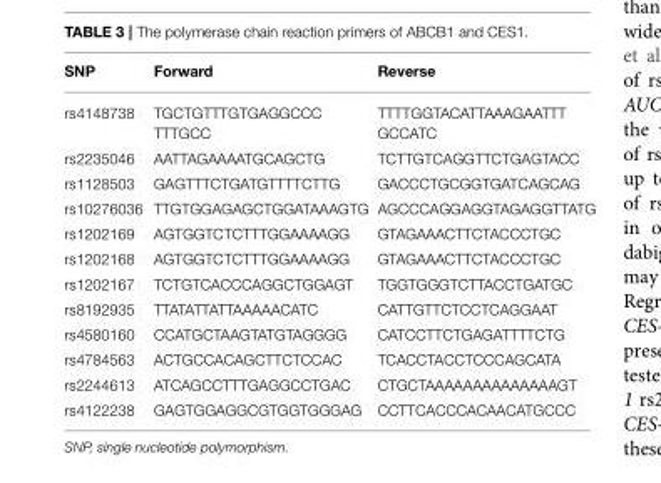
<table><thead><tr><td>SNP</td><td>Forward</td><td>Reverse</td></tr></thead><tbody><tr><td>rs4148738</td><td>TGCTGTTTGTGAGGCCC TTTGCC</td><td>TTTTGGTACATTAAAGAATTT GCCATC</td></tr><tr><td>rs2235046</td><td>AATTAGAAAATGCAGCTG</td><td>TCTTGTCAGGTTCTGAGTACC</td></tr><tr><td>rs1128503</td><td>GAGTTTCTGATGTTTTCTTG</td><td>GACCCTGCGGTGATCAGCAG</td></tr><tr><td>rs10276036</td><td>TTGTGGAGAGCTGGATAAAGTG</td><td>AGCCCAGGAGGTAGAGGTTATG</td></tr><tr><td>rs1202169</td><td>AGTGGTCTCTTTGGAAAAGG</td><td>GTAGAAACTTCTACCCTGC</td></tr><tr><td>rs1202168</td><td>AGTGGTCTCTTTGGAAAAGG</td><td>GTAGAAACTTCTACCCTGC</td></tr><tr><td>rs1202167</td><td>TCTGTCACCCAGGCTGGAGT</td><td>TGGTGGGTCTTACCTGATGC</td></tr><tr><td>rs8192935</td><td>TTATATTATTAAAAACATC</td><td>CATTGTTCTCCTCAGGAAT</td></tr><tr><td>rs4580160</td><td>CCATGCTAAGTATGTAGGGG</td><td>CATCCTTCTGAGATTTTCTG</td></tr><tr><td>rs4784563</td><td>ACTGCCACAGCTTCTCCAC</td><td>TCACCTACCTCCCAGCATA</td></tr><tr><td>rs2244613</td><td>ATCAGCCTTTGAGGCCTGAC</td><td>CTGCTAAAAAAAAAAAAAAGT</td></tr><tr><td>rs4122238</td><td>GAGTGGAGGCGTGGTGGGAG</td><td>CCTTCACCCACAACATGCCC</td></tr></tbody></table>